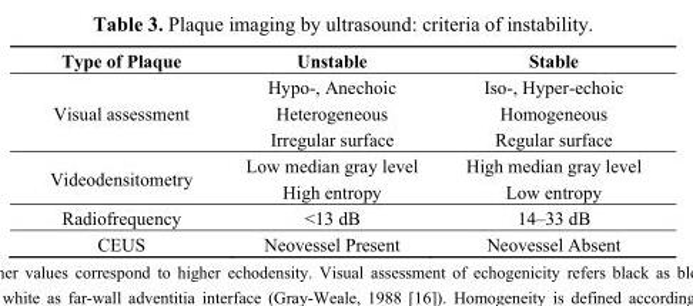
<table><thead><tr><td>Type of Plaque</td><td>Unstable</td><td>Stable</td></tr></thead><tbody><tr><td rowspan="3">Visual assessment</td><td>Hypo-, Anechoic</td><td>Iso-, Hyper-echoic</td></tr><tr><td>Heterogeneous</td><td>Homogeneous</td></tr><tr><td>Irregular surface</td><td>Regular surface</td></tr><tr><td rowspan="2">Videodensitometry</td><td>Low median gray level</td><td>High median gray level</td></tr><tr><td>High entropy</td><td>Low entropy</td></tr><tr><td>Radiofrequency</td><td>&lt;13 dB</td><td>14–33 dB</td></tr><tr><td>CEUS</td><td>Neovessel Present</td><td>Neovessel Absent</td></tr></tbody></table>